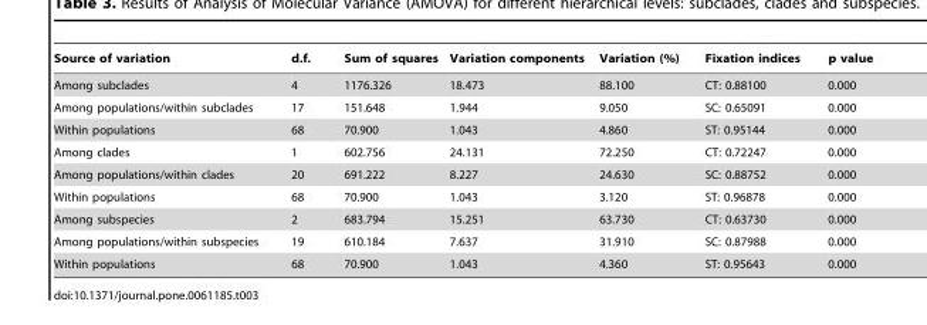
<table><thead><tr><td>Source of variation</td><td>d.f.</td><td>Sum of squares</td><td>Variation components</td><td>Variation (%)</td><td>Fixation indices</td><td>p value</td></tr></thead><tbody><tr><td>Among subclades</td><td>4</td><td>1176.326</td><td>18.473</td><td>88.100</td><td>CT: 0.88100</td><td>0.000</td></tr><tr><td>Among populations/within subclades</td><td>17</td><td>151.648</td><td>1.944</td><td>9.050</td><td>SC: 0.65091</td><td>0.000</td></tr><tr><td>Within populations</td><td>68</td><td>70.900</td><td>1.043</td><td>4.860</td><td>ST: 0.95144</td><td>0.000</td></tr><tr><td>Among clades</td><td>1</td><td>602.756</td><td>24.131</td><td>72.250</td><td>CT: 0.72247</td><td>0.000</td></tr><tr><td>Among populations/within clades</td><td>20</td><td>691.222</td><td>8.227</td><td>24.630</td><td>SC: 0.88752</td><td>0.000</td></tr><tr><td>Within populations</td><td>68</td><td>70.900</td><td>1.043</td><td>3.120</td><td>ST: 0.96878</td><td>0.000</td></tr><tr><td>Among subspecies</td><td>2</td><td>683.794</td><td>15.251</td><td>63.730</td><td>CT: 0.63730</td><td>0.000</td></tr><tr><td>Among populations/within subspecies</td><td>19</td><td>610.184</td><td>7.637</td><td>31.910</td><td>SC: 0.87988</td><td>0.000</td></tr><tr><td>Within populations</td><td>68</td><td>70.900</td><td>1.043</td><td>4.360</td><td>ST: 0.95643</td><td>0.000</td></tr></tbody></table>